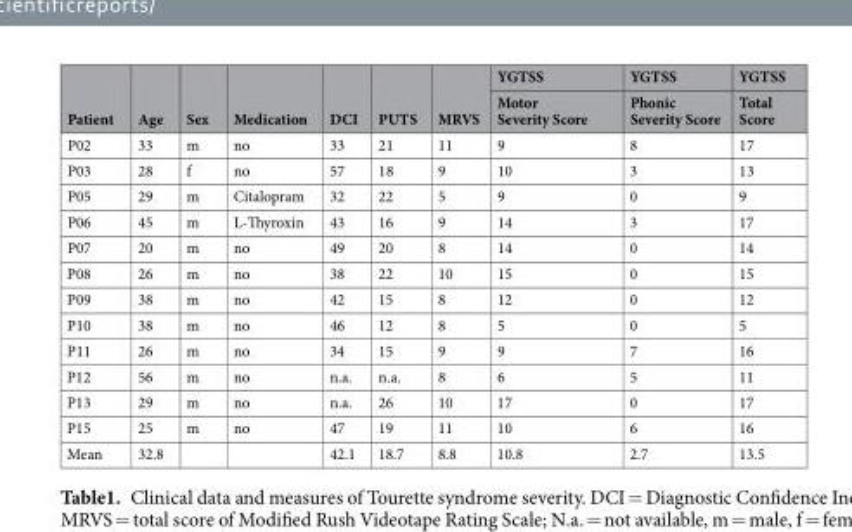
<table><thead><tr><td rowspan="2">Patient</td><td rowspan="2">Age</td><td rowspan="2">Sex</td><td rowspan="2">Medication</td><td rowspan="2">DCI</td><td rowspan="2">PUTS</td><td rowspan="2">MRVS</td><td rowspan="2">YGTSS Motor Severity Score</td><td rowspan="2">YGTSS Phonic Severity Score</td><td rowspan="2">YGTSS Total Score</td></tr><tr></tr></thead><tbody><tr><td>P02</td><td>33</td><td>m</td><td>no</td><td>33</td><td>21</td><td>11</td><td>9</td><td>8</td><td>17</td></tr><tr><td>P03</td><td>28</td><td>f</td><td>no</td><td>57</td><td>18</td><td>9</td><td>10</td><td>3</td><td>13</td></tr><tr><td>P05</td><td>29</td><td>m</td><td>Citalopram</td><td>32</td><td>22</td><td>5</td><td>9</td><td>0</td><td>9</td></tr><tr><td>P06</td><td>45</td><td>m</td><td>L-Thyroxin</td><td>43</td><td>16</td><td>9</td><td>14</td><td>3</td><td>17</td></tr><tr><td>P07</td><td>20</td><td>m</td><td>no</td><td>49</td><td>20</td><td>8</td><td>14</td><td>0</td><td>14</td></tr><tr><td>P08</td><td>26</td><td>m</td><td>no</td><td>38</td><td>22</td><td>10</td><td>15</td><td>0</td><td>15</td></tr><tr><td>P09</td><td>38</td><td>m</td><td>no</td><td>42</td><td>15</td><td>8</td><td>12</td><td>0</td><td>12</td></tr><tr><td>P10</td><td>38</td><td>m</td><td>no</td><td>46</td><td>12</td><td>8</td><td>5</td><td>0</td><td>5</td></tr><tr><td>P11</td><td>26</td><td>m</td><td>no</td><td>34</td><td>15</td><td>9</td><td>9</td><td>7</td><td>16</td></tr><tr><td>P12</td><td>56</td><td>m</td><td>no</td><td>n.a.</td><td>n.a.</td><td>8</td><td>6</td><td>5</td><td>11</td></tr><tr><td>P13</td><td>29</td><td>m</td><td>no</td><td>n.a.</td><td>26</td><td>10</td><td>17</td><td>0</td><td>17</td></tr><tr><td>P15</td><td>25</td><td>m</td><td>no</td><td>47</td><td>19</td><td>11</td><td>10</td><td>6</td><td>16</td></tr><tr><td>Mean</td><td>32.8</td><td></td><td></td><td>42.1</td><td>18.7</td><td>8.8</td><td>10.8</td><td>2.7</td><td>13.5</td></tr></tbody></table>